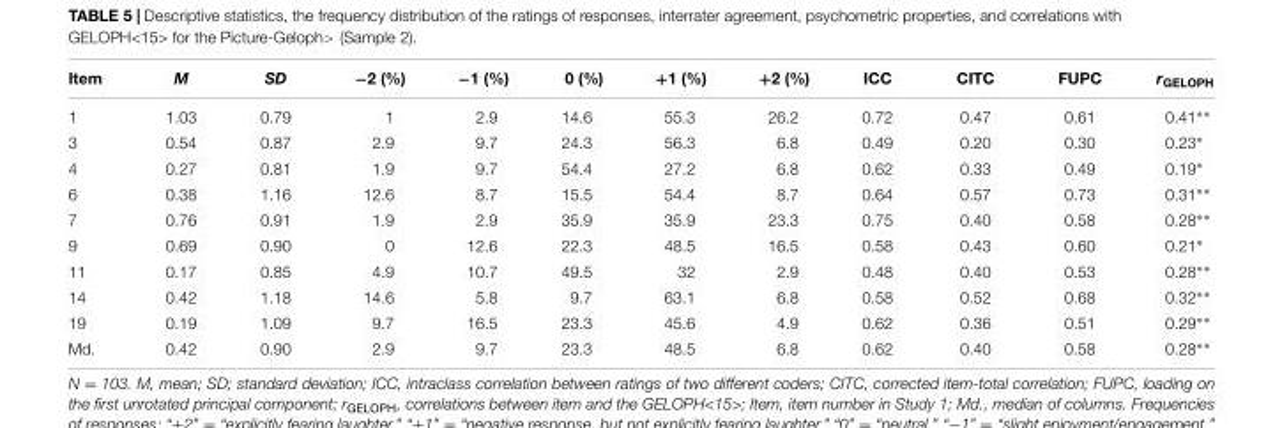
<table><thead><tr><td>Item</td><td>M</td><td>SD</td><td>−2 (%)</td><td>−1 (%)</td><td>0 (%)</td><td>+1 (%)</td><td>+2 (%)</td><td>ICC</td><td>CITC</td><td>FUPC</td><td>r<sub>GELOPH</sub></td></tr></thead><tbody><tr><td>1</td><td>1.03</td><td>0.79</td><td>1</td><td>2.9</td><td>14.6</td><td>55.3</td><td>26.2</td><td>0.72</td><td>0.47</td><td>0.61</td><td>0.41∗∗</td></tr><tr><td>3</td><td>0.54</td><td>0.87</td><td>2.9</td><td>9.7</td><td>24.3</td><td>56.3</td><td>6.8</td><td>0.49</td><td>0.20</td><td>0.30</td><td>0.23∗</td></tr><tr><td>4</td><td>0.27</td><td>0.81</td><td>1.9</td><td>9.7</td><td>54.4</td><td>27.2</td><td>6.8</td><td>0.62</td><td>0.33</td><td>0.49</td><td>0.19∗</td></tr><tr><td>6</td><td>0.38</td><td>1.16</td><td>12.6</td><td>8.7</td><td>15.5</td><td>54.4</td><td>8.7</td><td>0.64</td><td>0.57</td><td>0.73</td><td>0.31∗∗</td></tr><tr><td>7</td><td>0.76</td><td>0.91</td><td>1.9</td><td>2.9</td><td>35.9</td><td>35.9</td><td>23.3</td><td>0.75</td><td>0.40</td><td>0.58</td><td>0.28∗∗</td></tr><tr><td>9</td><td>0.69</td><td>0.90</td><td>0</td><td>12.6</td><td>22.3</td><td>48.5</td><td>16.5</td><td>0.58</td><td>0.43</td><td>0.60</td><td>0.21∗</td></tr><tr><td>11</td><td>0.17</td><td>0.85</td><td>4.9</td><td>10.7</td><td>49.5</td><td>32</td><td>2.9</td><td>0.48</td><td>0.40</td><td>0.53</td><td>0.28∗∗</td></tr><tr><td>14</td><td>0.42</td><td>1.18</td><td>14.6</td><td>5.8</td><td>9.7</td><td>63.1</td><td>6.8</td><td>0.58</td><td>0.52</td><td>0.68</td><td>0.32∗∗</td></tr><tr><td>19</td><td>0.19</td><td>1.09</td><td>9.7</td><td>16.5</td><td>23.3</td><td>45.6</td><td>4.9</td><td>0.62</td><td>0.36</td><td>0.51</td><td>0.29∗∗</td></tr><tr><td>Md.</td><td>0.42</td><td>0.90</td><td>2.9</td><td>9.7</td><td>23.3</td><td>48.5</td><td>6.8</td><td>0.62</td><td>0.40</td><td>0.58</td><td>0.28∗∗</td></tr></tbody></table>